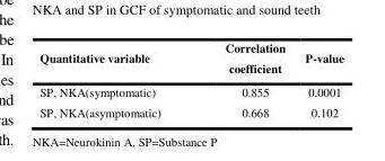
<table><thead><tr><td>Quantitative variable</td><td>Correlation coefficient</td><td>P-value</td></tr></thead><tbody><tr><td>SP, NKA(symptomatic)</td><td>0.855</td><td>0.0001</td></tr><tr><td>SP, NKA(asymptomatic)</td><td>0.668</td><td>0.102</td></tr></tbody></table>